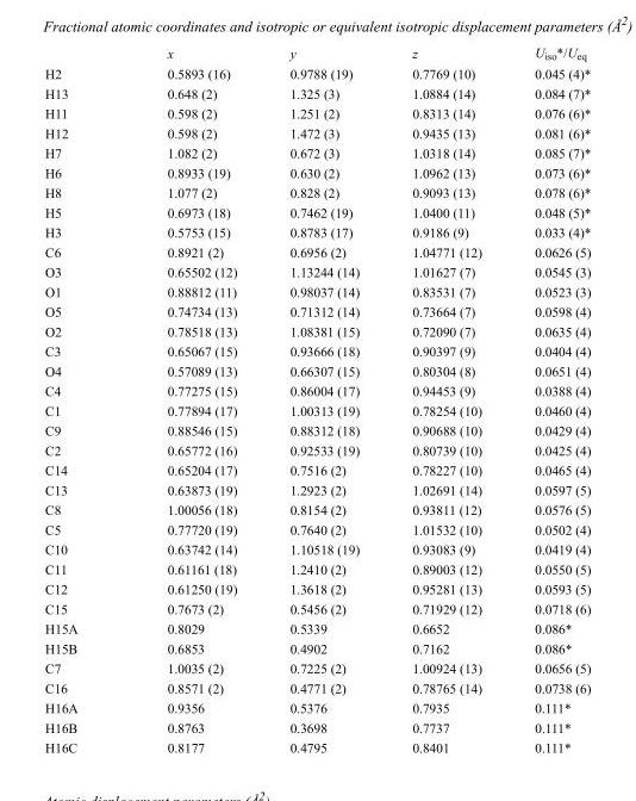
<table><thead><tr><td></td><td>x</td><td>y</td><td>z</td><td>U<sub>iso</sub>*/U<sub>eq</sub></td></tr></thead><tbody><tr><td>H2</td><td>0.5893 (16)</td><td>0.9788 (19)</td><td>0.7769 (10)</td><td>0.045 (4)*</td></tr><tr><td>H13</td><td>0.648 (2)</td><td>1.325 (3)</td><td>1.0884 (14)</td><td>0.084 (7)*</td></tr><tr><td>H11</td><td>0.598 (2)</td><td>1.251 (2)</td><td>0.8313 (14)</td><td>0.076 (6)*</td></tr><tr><td>H12</td><td>0.598 (2)</td><td>1.472 (3)</td><td>0.9435 (13)</td><td>0.081 (6)*</td></tr><tr><td>H7</td><td>1.082 (2)</td><td>0.672 (3)</td><td>1.0318 (14)</td><td>0.085 (7)*</td></tr><tr><td>H6</td><td>0.8933 (19)</td><td>0.630 (2)</td><td>1.0962 (13)</td><td>0.073 (6)*</td></tr><tr><td>H8</td><td>1.077 (2)</td><td>0.828 (2)</td><td>0.9093 (13)</td><td>0.078 (6)*</td></tr><tr><td>H5</td><td>0.6973 (18)</td><td>0.7462 (19)</td><td>1.0400 (11)</td><td>0.048 (5)*</td></tr><tr><td>H3</td><td>0.5753 (15)</td><td>0.8783 (17)</td><td>0.9186 (9)</td><td>0.033 (4)*</td></tr><tr><td>C6</td><td>0.8921 (2)</td><td>0.6956 (2)</td><td>1.04771 (12)</td><td>0.0626 (5)</td></tr><tr><td>O3</td><td>0.65502 (12)</td><td>1.13244 (14)</td><td>1.01627 (7)</td><td>0.0545 (3)</td></tr><tr><td>O1</td><td>0.88812 (11)</td><td>0.98037 (14)</td><td>0.83531 (7)</td><td>0.0523 (3)</td></tr><tr><td>O5</td><td>0.74734 (13)</td><td>0.71312 (14)</td><td>0.73664 (7)</td><td>0.0598 (4)</td></tr><tr><td>O2</td><td>0.78518 (13)</td><td>1.08381 (15)</td><td>0.72090 (7)</td><td>0.0635 (4)</td></tr><tr><td>C3</td><td>0.65067 (15)</td><td>0.93666 (18)</td><td>0.90397 (9)</td><td>0.0404 (4)</td></tr><tr><td>O4</td><td>0.57089 (13)</td><td>0.66307 (15)</td><td>0.80304 (8)</td><td>0.0651 (4)</td></tr><tr><td>C4</td><td>0.77275 (15)</td><td>0.86004 (17)</td><td>0.94453 (9)</td><td>0.0388 (4)</td></tr><tr><td>C1</td><td>0.77894 (17)</td><td>1.00313 (19)</td><td>0.78254 (10)</td><td>0.0460 (4)</td></tr><tr><td>C9</td><td>0.88546 (15)</td><td>0.88312 (18)</td><td>0.90688 (10)</td><td>0.0429 (4)</td></tr><tr><td>C2</td><td>0.65772 (16)</td><td>0.92533 (19)</td><td>0.80739 (10)</td><td>0.0425 (4)</td></tr><tr><td>C14</td><td>0.65204 (17)</td><td>0.7516 (2)</td><td>0.78227 (10)</td><td>0.0465 (4)</td></tr><tr><td>C13</td><td>0.63873 (19)</td><td>1.2923 (2)</td><td>1.02691 (14)</td><td>0.0597 (5)</td></tr><tr><td>C8</td><td>1.00056 (18)</td><td>0.8154 (2)</td><td>0.93811 (12)</td><td>0.0576 (5)</td></tr><tr><td>C5</td><td>0.77720 (19)</td><td>0.7640 (2)</td><td>1.01532 (10)</td><td>0.0502 (4)</td></tr><tr><td>C10</td><td>0.63742 (14)</td><td>1.10518 (19)</td><td>0.93083 (9)</td><td>0.0419 (4)</td></tr><tr><td>C11</td><td>0.61161 (18)</td><td>1.2410 (2)</td><td>0.89003 (12)</td><td>0.0550 (5)</td></tr><tr><td>C12</td><td>0.61250 (19)</td><td>1.3618 (2)</td><td>0.95281 (13)</td><td>0.0593 (5)</td></tr><tr><td>C15</td><td>0.7673 (2)</td><td>0.5456 (2)</td><td>0.71929 (12)</td><td>0.0718 (6)</td></tr><tr><td>H15A</td><td>0.8029</td><td>0.5339</td><td>0.6652</td><td>0.086*</td></tr><tr><td>H15B</td><td>0.6853</td><td>0.4902</td><td>0.7162</td><td>0.086*</td></tr><tr><td>C7</td><td>1.0035 (2)</td><td>0.7225 (2)</td><td>1.00924 (13)</td><td>0.0656 (5)</td></tr><tr><td>C16</td><td>0.8571 (2)</td><td>0.4771 (2)</td><td>0.78765 (14)</td><td>0.0738 (6)</td></tr><tr><td>H16A</td><td>0.9356</td><td>0.5376</td><td>0.7935</td><td>0.111*</td></tr><tr><td>H16B</td><td>0.8763</td><td>0.3698</td><td>0.7737</td><td>0.111*</td></tr><tr><td>H16C</td><td>0.8177</td><td>0.4795</td><td>0.8401</td><td>0.111*</td></tr></tbody></table>